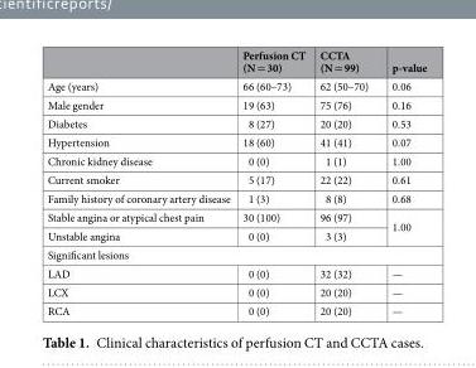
<table><thead><tr><td></td><td>Perfusion CT (N = 30)</td><td>CCTA (N = 99)</td><td>p-value</td></tr></thead><tbody><tr><td>Age (years)</td><td>66 (60–73)</td><td>62 (50–70)</td><td>0.06</td></tr><tr><td>Male gender</td><td>19 (63)</td><td>75 (76)</td><td>0.16</td></tr><tr><td>Diabetes</td><td>8 (27)</td><td>20 (20)</td><td>0.53</td></tr><tr><td>Hypertension</td><td>18 (60)</td><td>41 (41)</td><td>0.07</td></tr><tr><td>Chronic kidney disease</td><td>0 (0)</td><td>1 (1)</td><td>1.00</td></tr><tr><td>Current smoker</td><td>5 (17)</td><td>22 (22)</td><td>0.61</td></tr><tr><td>Family history of coronary artery disease</td><td>1 (3)</td><td>8 (8)</td><td>0.68</td></tr><tr><td>Stable angina or atypical chest pain</td><td>30 (100)</td><td>96 (97)</td><td rowspan="2">1.00</td></tr><tr><td>Unstable angina</td><td>0 (0)</td><td>3 (3)</td></tr><tr><td colspan="4">Significant lesions</td></tr><tr><td>LAD</td><td>0 (0)</td><td>32 (32)</td><td>—</td></tr><tr><td>LCX</td><td>0 (0)</td><td>20 (20)</td><td>—</td></tr><tr><td>RCA</td><td>0 (0)</td><td>20 (20)</td><td>—</td></tr></tbody></table>